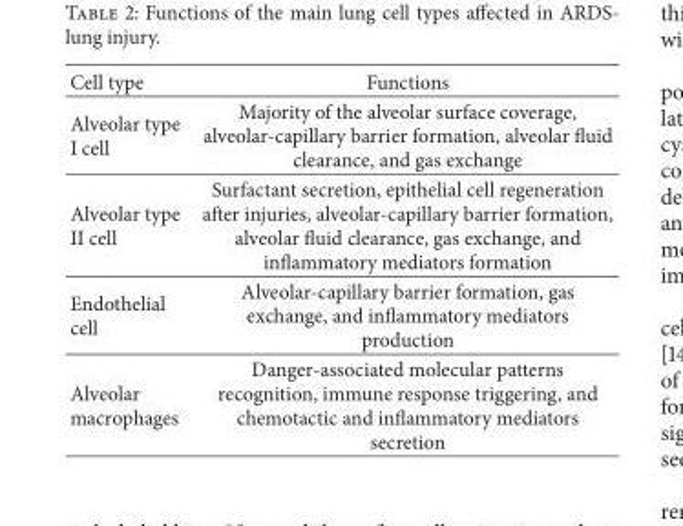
<table><thead><tr><td>Cell type</td><td>Functions</td></tr></thead><tbody><tr><td>Alveolar type I cell</td><td>Majority of the alveolar surface coverage, alveolar-capillary barrier formation, alveolar fluid clearance, and gas exchange</td></tr><tr><td>Alveolar type II cell</td><td>Surfactant secretion, epithelial cell regeneration after injuries, alveolar-capillary barrier formation, alveolar fluid clearance, gas exchange, and inflammatory mediators formation</td></tr><tr><td>Endothelial cell</td><td>Alveolar-capillary barrier formation, gas exchange, and inflammatory mediators production</td></tr><tr><td>Alveolar macrophages</td><td>Danger-associated molecular patterns recognition, immune response triggering, and chemotactic and inflammatory mediators secretion</td></tr></tbody></table>